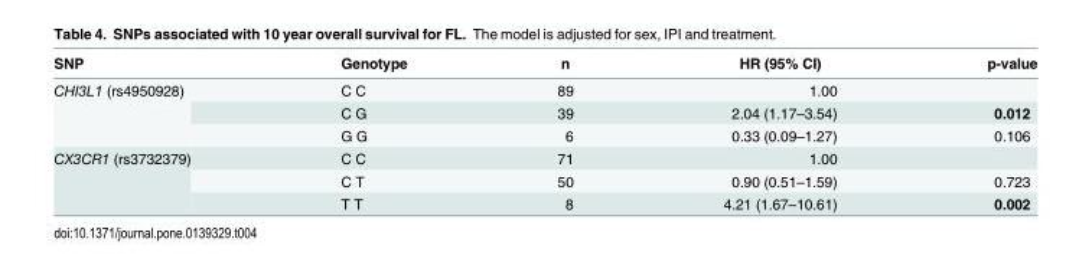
<table><thead><tr><td>SNP</td><td>Genotype</td><td>n</td><td>HR (95% CI)</td><td>p-value</td></tr></thead><tbody><tr><td rowspan="3">CHI3L1 (rs4950928)</td><td>C C</td><td>89</td><td>1.00</td><td></td></tr><tr><td>C G</td><td>39</td><td>2.04 (1.17–3.54)</td><td>0.012</td></tr><tr><td>G G</td><td>6</td><td>0.33 (0.09–1.27)</td><td>0.106</td></tr><tr><td rowspan="3">CX3CR1 (rs3732379)</td><td>C C</td><td>71</td><td>1.00</td><td></td></tr><tr><td>C T</td><td>50</td><td>0.90 (0.51–1.59)</td><td>0.723</td></tr><tr><td>T T</td><td>8</td><td>4.21 (1.67–10.61)</td><td>0.002</td></tr></tbody></table>